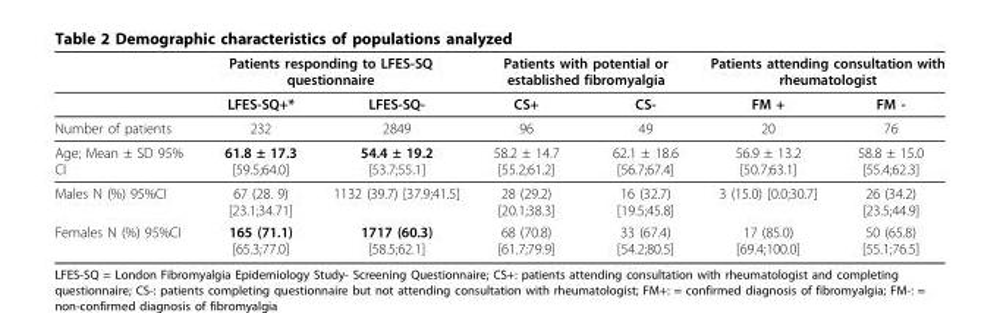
<table><thead><tr><td rowspan="2"></td><td colspan="2">Patients responding to LFES-SQ questionnaire</td><td colspan="2">Patients with potential or established fibromyalgia</td><td colspan="2">Patients attending consultation with rheumatologist</td></tr><tr><td>LFES-SQ+*</td><td>LFES-SQ-</td><td>CS+</td><td>CS-</td><td>FM +</td><td>FM -</td></tr></thead><tbody><tr><td>Number of patients</td><td>232</td><td>2849</td><td>96</td><td>49</td><td>20</td><td>76</td></tr><tr><td>Age; Mean ± SD 95% CI</td><td>61.8 ± 17.3 [59.5;64.0]</td><td>54.4 ± 19.2 [53.7;55.1]</td><td>58.2 ± 14.7 [55.2;61.2]</td><td>62.1 ± 18.6 [56.7;67.4]</td><td>56.9 ± 13.2 [50.7;63.1]</td><td>58.8 ± 15.0 [55.4;62.3]</td></tr><tr><td>Males N (%) 95%CI</td><td>67 (28. 9) [23.1;34.71]</td><td>1132 (39.7) [37.9;41.5]</td><td>28 (29.2) [20.1;38.3]</td><td>16 (32.7) [19.5;45.8]</td><td>3 (15.0) [0.0;30.7]</td><td>26 (34.2) [23.5;44.9]</td></tr><tr><td>Females N (%) 95%CI</td><td>165 (71.1) [65.3;77.0]</td><td>1717 (60.3) [58.5;62.1]</td><td>68 (70.8) [61.7;79.9]</td><td>33 (67.4) [54.2;80.5]</td><td>17 (85.0) [69.4;100.0]</td><td>50 (65.8) [55.1;76.5]</td></tr></tbody></table>